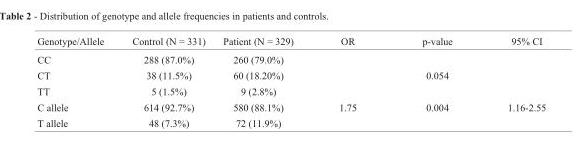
<table><thead><tr><td>Genotype/Allele</td><td>Control (N = 331)</td><td>Patient (N = 329)</td><td>OR</td><td>p-value</td><td>95% CI</td></tr></thead><tbody><tr><td>CC</td><td>288 (87.0%)</td><td>260 (79.0%)</td><td></td><td></td><td></td></tr><tr><td>CT</td><td>38 (11.5%)</td><td>60 (18.20%)</td><td></td><td>0.054</td><td></td></tr><tr><td>TT</td><td>5 (1.5%)</td><td>9 (2.8%)</td><td></td><td></td><td></td></tr><tr><td>C allele</td><td>614 (92.7%)</td><td>580 (88.1%)</td><td>1.75</td><td>0.004</td><td>1.16-2.55</td></tr><tr><td>T allele</td><td>48 (7.3%)</td><td>72 (11.9%)</td><td></td><td></td><td></td></tr></tbody></table>